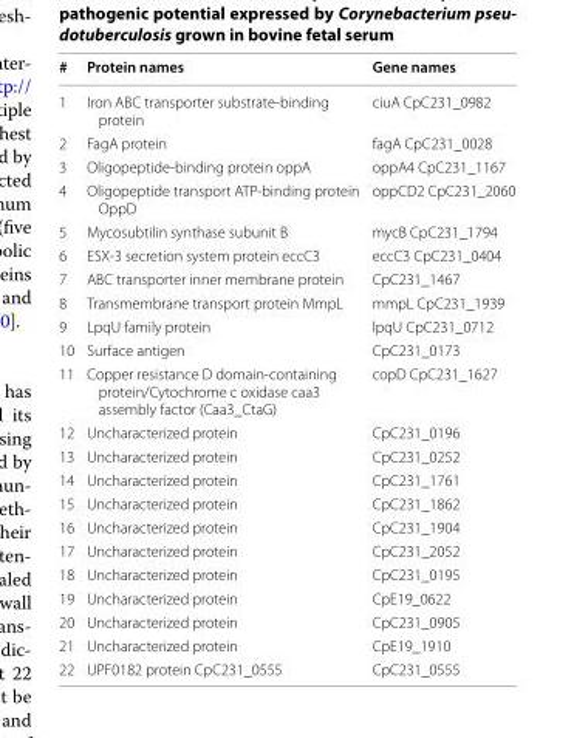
<table><thead><tr><td>#</td><td>Protein names</td><td>Gene names</td></tr></thead><tbody><tr><td>1</td><td>Iron ABC transporter substrate‑binding protein</td><td>ciuA CpC231_0982</td></tr><tr><td>2</td><td>FagA protein</td><td>fagA CpC231_0028</td></tr><tr><td>3</td><td>Oligopeptide‑binding protein oppA</td><td>oppA4 CpC231_1167</td></tr><tr><td>4</td><td>Oligopeptide transport ATP‑binding protein OppD</td><td>oppCD2 CpC231_2060</td></tr><tr><td>5</td><td>Mycosubtilin synthase subunit B</td><td>mycB CpC231_1794</td></tr><tr><td>6</td><td>ESX‑3 secretion system protein eccC3</td><td>eccC3 CpC231_0404</td></tr><tr><td>7</td><td>ABC transporter inner membrane protein</td><td>CpC231_1467</td></tr><tr><td>8</td><td>Transmembrane transport protein MmpL</td><td>mmpL CpC231_1939</td></tr><tr><td>9</td><td>LpqU family protein</td><td>lpqU CpC231_0712</td></tr><tr><td>10</td><td>Surface antigen</td><td>CpC231_0173</td></tr><tr><td>11</td><td>Copper resistance D domain‑containing protein/Cytochrome c oxidase caa3 assembly factor (Caa3_CtaG)</td><td>copD CpC231_1627</td></tr><tr><td>12</td><td>Uncharacterized protein</td><td>CpC231_0196</td></tr><tr><td>13</td><td>Uncharacterized protein</td><td>CpC231_0252</td></tr><tr><td>14</td><td>Uncharacterized protein</td><td>CpC231_1761</td></tr><tr><td>15</td><td>Uncharacterized protein</td><td>CpC231_1862</td></tr><tr><td>16</td><td>Uncharacterized protein</td><td>CpC231_1904</td></tr><tr><td>17</td><td>Uncharacterized protein</td><td>CpC231_2052</td></tr><tr><td>18</td><td>Uncharacterized protein</td><td>CpC231_0195</td></tr><tr><td>19</td><td>Uncharacterized protein</td><td>CpE19_0622</td></tr><tr><td>20</td><td>Uncharacterized protein</td><td>CpC231_0905</td></tr><tr><td>21</td><td>Uncharacterized protein</td><td>CpE19_1910</td></tr><tr><td>22</td><td>UPF0182 protein CpC231_0555</td><td>CpC231_0555</td></tr></tbody></table>